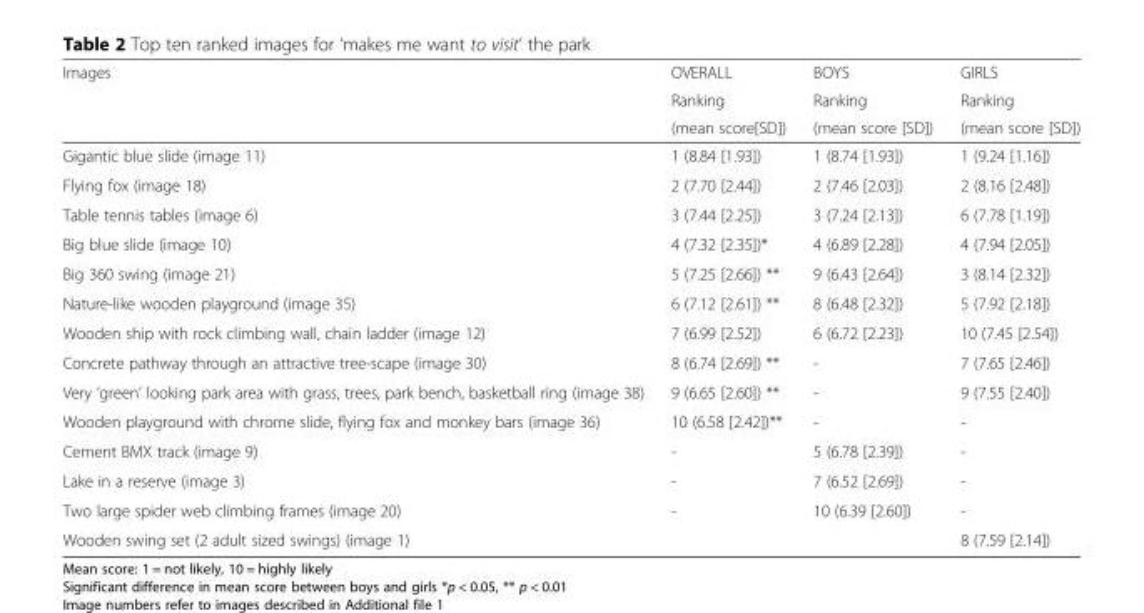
<table><thead><tr><td rowspan="3">Images</td><td rowspan="3">OVERALL Ranking (mean score[SD])</td><td rowspan="3">BOYS Ranking (mean score [SD])</td><td rowspan="3">GIRLS Ranking (mean score [SD])</td></tr><tr></tr><tr></tr></thead><tbody><tr><td>Gigantic blue slide (image 11)</td><td>1 (8.84 [1.93])</td><td>1 (8.74 [1.93])</td><td>1 (9.24 [1.16])</td></tr><tr><td>Flying fox (image 18)</td><td>2 (7.70 [2.44])</td><td>2 (7.46 [2.03])</td><td>2 (8.16 [2.48])</td></tr><tr><td>Table tennis tables (image 6)</td><td>3 (7.44 [2.25])</td><td>3 (7.24 [2.13])</td><td>6 (7.78 [1.19])</td></tr><tr><td>Big blue slide (image 10)</td><td>4 (7.32 [2.35])*</td><td>4 (6.89 [2.28])</td><td>4 (7.94 [2.05])</td></tr><tr><td>Big 360 swing (image 21)</td><td>5 (7.25 [2.66]) **</td><td>9 (6.43 [2.64])</td><td>3 (8.14 [2.32])</td></tr><tr><td>Nature-like wooden playground (image 35)</td><td>6 (7.12 [2.61]) **</td><td>8 (6.48 [2.32])</td><td>5 (7.92 [2.18])</td></tr><tr><td>Wooden ship with rock climbing wall, chain ladder (image 12)</td><td>7 (6.99 [2.52])</td><td>6 (6.72 [2.23])</td><td>10 (7.45 [2.54])</td></tr><tr><td>Concrete pathway through an attractive tree-scape (image 30)</td><td>8 (6.74 [2.69]) **</td><td>-</td><td>7 (7.65 [2.46])</td></tr><tr><td>Very ‘green’ looking park area with grass, trees, park bench, basketball ring (image 38)</td><td>9 (6.65 [2.60]) **</td><td>-</td><td>9 (7.55 [2.40])</td></tr><tr><td>Wooden playground with chrome slide, flying fox and monkey bars (image 36)</td><td>10 (6.58 [2.42])**</td><td>-</td><td>-</td></tr><tr><td>Cement BMX track (image 9)</td><td>-</td><td>5 (6.78 [2.39])</td><td>-</td></tr><tr><td>Lake in a reserve (image 3)</td><td>-</td><td>7 (6.52 [2.69])</td><td>-</td></tr><tr><td>Two large spider web climbing frames (image 20)</td><td>-</td><td>10 (6.39 [2.60])</td><td>-</td></tr><tr><td>Wooden swing set (2 adult sized swings) (image 1)</td><td></td><td></td><td>8 (7.59 [2.14])</td></tr></tbody></table>